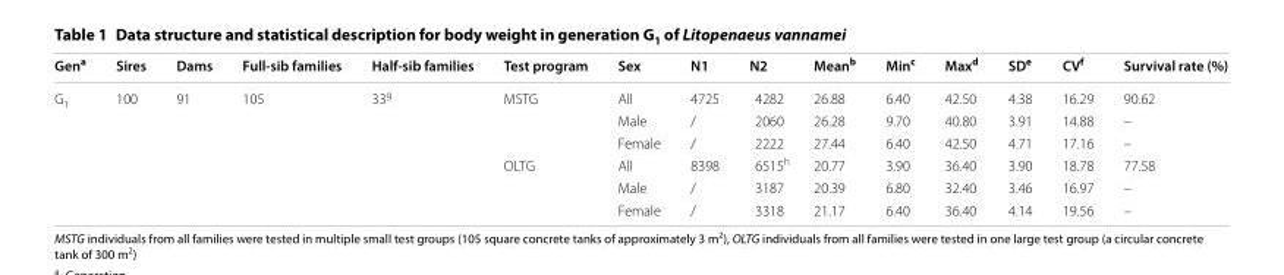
<table><thead><tr><td>Gen<sup>a</sup></td><td>Sires</td><td>Dams</td><td>Full-sib families</td><td>Half-sib families</td><td>Test program</td><td>Sex</td><td>N1</td><td>N2</td><td>Mean<sup>b</sup></td><td>Min<sup>c</sup></td><td>Max<sup>d</sup></td><td>SD<sup>e</sup></td><td>CV<sup>f</sup></td><td>Survival rate (%)</td></tr></thead><tbody><tr><td rowspan="6">G<sub>1</sub></td><td>100</td><td>91</td><td>105</td><td>33<sup>g</sup></td><td>MSTG</td><td>All</td><td>4725</td><td>4282</td><td>26.88</td><td>6.40</td><td>42.50</td><td>4.38</td><td>16.29</td><td>90.62</td></tr><tr><td></td><td></td><td></td><td></td><td></td><td>Male</td><td>/</td><td>2060</td><td>26.28</td><td>9.70</td><td>40.80</td><td>3.91</td><td>14.88</td><td>–</td></tr><tr><td></td><td></td><td></td><td></td><td></td><td>Female</td><td>/</td><td>2222</td><td>27.44</td><td>6.40</td><td>42.50</td><td>4.71</td><td>17.16</td><td>–</td></tr><tr><td></td><td></td><td></td><td></td><td>OLTG</td><td>All</td><td>8398</td><td>6515<sup>h</sup></td><td>20.77</td><td>3.90</td><td>36.40</td><td>3.90</td><td>18.78</td><td>77.58</td></tr><tr><td></td><td></td><td></td><td></td><td></td><td>Male</td><td>/</td><td>3187</td><td>20.39</td><td>6.80</td><td>32.40</td><td>3.46</td><td>16.97</td><td>–</td></tr><tr><td></td><td></td><td></td><td></td><td></td><td>Female</td><td>/</td><td>3318</td><td>21.17</td><td>6.40</td><td>36.40</td><td>4.14</td><td>19.56</td><td>–</td></tr></tbody></table>